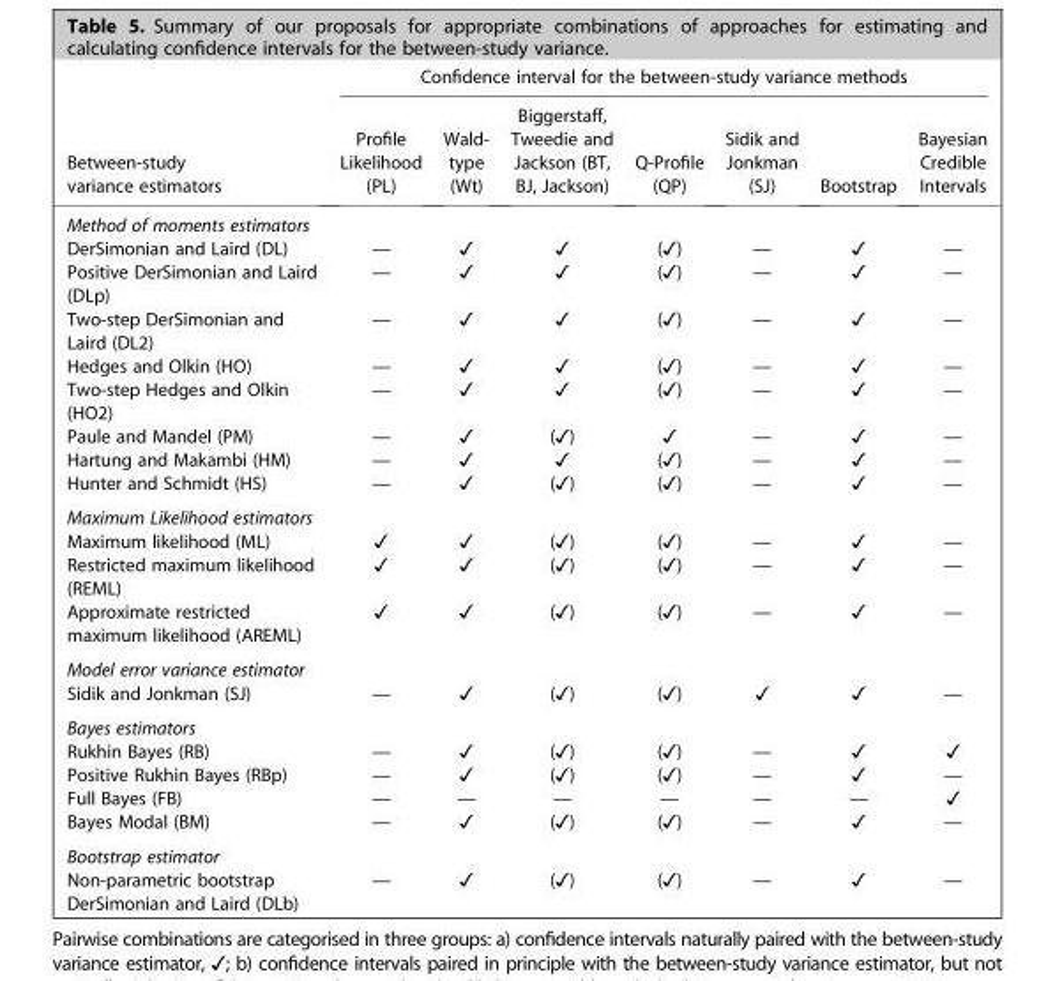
<table><thead><tr><td rowspan="2">Between-study variance estimators</td><td colspan="7">Confidence interval for the between-study variance methods</td></tr><tr><td>Profile Likelihood (PL)</td><td>Wald- type (Wt)</td><td>Biggerstaff, Tweedie and Jackson (BT, BJ, Jackson)</td><td>Q-Profile (QP)</td><td>Sidik and Jonkman (SJ)</td><td>Bootstrap</td><td>Bayesian Credible Intervals</td></tr></thead><tbody><tr><td colspan="8">Method of moments estimators</td></tr><tr><td>DerSimonian and Laird (DL)</td><td>—</td><td>✓</td><td>✓</td><td>(✓)</td><td>—</td><td>✓</td><td>—</td></tr><tr><td>Positive DerSimonian and Laird (DLp)</td><td>—</td><td>✓</td><td>✓</td><td>(✓)</td><td>—</td><td>✓</td><td>—</td></tr><tr><td>Two-step DerSimonian and Laird (DL2)</td><td>—</td><td>✓</td><td>✓</td><td>(✓)</td><td>—</td><td>✓</td><td>—</td></tr><tr><td>Hedges and Olkin (HO)</td><td>—</td><td>✓</td><td>✓</td><td>(✓)</td><td>—</td><td>✓</td><td>—</td></tr><tr><td>Two-step Hedges and Olkin (HO2)</td><td>—</td><td>✓</td><td>✓</td><td>(✓)</td><td>—</td><td>✓</td><td>—</td></tr><tr><td>Paule and Mandel (PM)</td><td>—</td><td>✓</td><td>(✓)</td><td>✓</td><td>—</td><td>✓</td><td>—</td></tr><tr><td>Hartung and Makambi (HM)</td><td>—</td><td>✓</td><td>✓</td><td>(✓)</td><td>—</td><td>✓</td><td>—</td></tr><tr><td>Hunter and Schmidt (HS)</td><td>—</td><td>✓</td><td>(✓)</td><td>(✓)</td><td>—</td><td>✓</td><td>—</td></tr><tr><td colspan="8">Maximum Likelihood estimators</td></tr><tr><td>Maximum likelihood (ML)</td><td>✓</td><td>✓</td><td>(✓)</td><td>(✓)</td><td>—</td><td>✓</td><td>—</td></tr><tr><td>Restricted maximum likelihood (REML)</td><td>✓</td><td>✓</td><td>(✓)</td><td>(✓)</td><td>—</td><td>✓</td><td>—</td></tr><tr><td>Approximate restricted maximum likelihood (AREML)</td><td>✓</td><td>✓</td><td>(✓)</td><td>(✓)</td><td>—</td><td>✓</td><td>—</td></tr><tr><td colspan="8">Model error variance estimator</td></tr><tr><td>Sidik and Jonkman (SJ)</td><td>—</td><td>✓</td><td>(✓)</td><td>(✓)</td><td>✓</td><td>✓</td><td>—</td></tr><tr><td colspan="8">Bayes estimators</td></tr><tr><td>Rukhin Bayes (RB)</td><td>—</td><td>✓</td><td>(✓)</td><td>(✓)</td><td>—</td><td>✓</td><td>✓</td></tr><tr><td>Positive Rukhin Bayes (RBp)</td><td>—</td><td>✓</td><td>(✓)</td><td>(✓)</td><td>—</td><td>✓</td><td>—</td></tr><tr><td>Full Bayes (FB)</td><td>—</td><td>—</td><td>—</td><td>—</td><td>—</td><td>—</td><td>✓</td></tr><tr><td>Bayes Modal (BM)</td><td>—</td><td>✓</td><td>(✓)</td><td>(✓)</td><td>—</td><td>✓</td><td>—</td></tr><tr><td colspan="8">Bootstrap estimator</td></tr><tr><td>Non-parametric bootstrap DerSimonian and Laird (DLb)</td><td>—</td><td>✓</td><td>(✓)</td><td>(✓)</td><td>—</td><td>✓</td><td>—</td></tr></tbody></table>